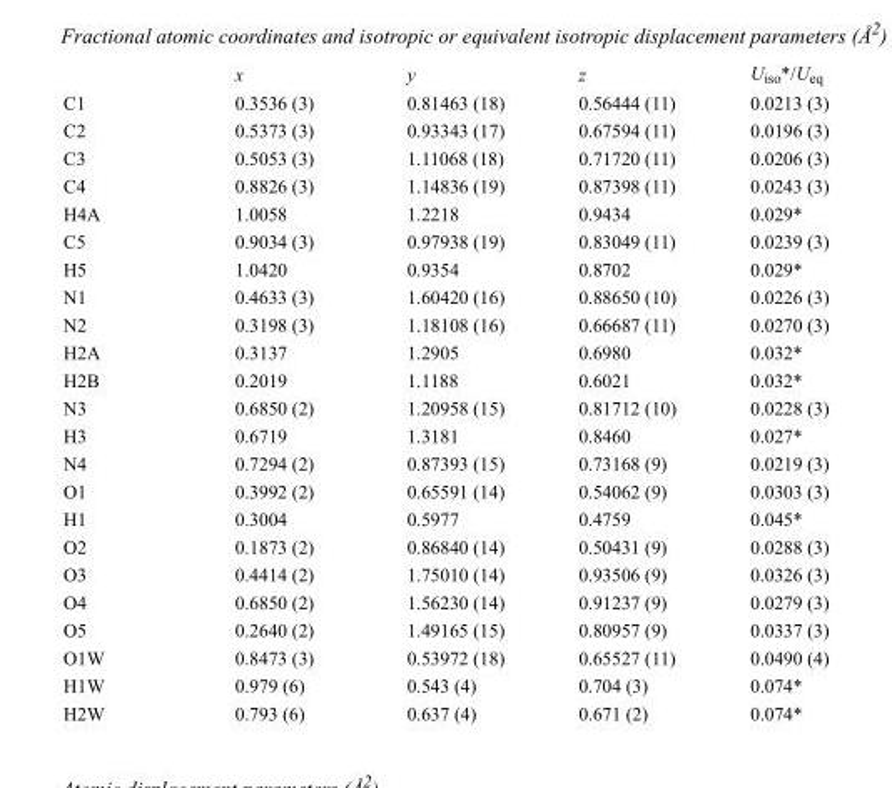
<table><thead><tr><td></td><td>x</td><td>y</td><td>z</td><td>U<sub>iso</sub>*/U<sub>eq</sub></td></tr></thead><tbody><tr><td>C1</td><td>0.3536 (3)</td><td>0.81463 (18)</td><td>0.56444 (11)</td><td>0.0213 (3)</td></tr><tr><td>C2</td><td>0.5373 (3)</td><td>0.93343 (17)</td><td>0.67594 (11)</td><td>0.0196 (3)</td></tr><tr><td>C3</td><td>0.5053 (3)</td><td>1.11068 (18)</td><td>0.71720 (11)</td><td>0.0206 (3)</td></tr><tr><td>C4</td><td>0.8826 (3)</td><td>1.14836 (19)</td><td>0.87398 (11)</td><td>0.0243 (3)</td></tr><tr><td>H4A</td><td>1.0058</td><td>1.2218</td><td>0.9434</td><td>0.029*</td></tr><tr><td>C5</td><td>0.9034 (3)</td><td>0.97938 (19)</td><td>0.83049 (11)</td><td>0.0239 (3)</td></tr><tr><td>H5</td><td>1.0420</td><td>0.9354</td><td>0.8702</td><td>0.029*</td></tr><tr><td>N1</td><td>0.4633 (3)</td><td>1.60420 (16)</td><td>0.88650 (10)</td><td>0.0226 (3)</td></tr><tr><td>N2</td><td>0.3198 (3)</td><td>1.18108 (16)</td><td>0.66687 (11)</td><td>0.0270 (3)</td></tr><tr><td>H2A</td><td>0.3137</td><td>1.2905</td><td>0.6980</td><td>0.032*</td></tr><tr><td>H2B</td><td>0.2019</td><td>1.1188</td><td>0.6021</td><td>0.032*</td></tr><tr><td>N3</td><td>0.6850 (2)</td><td>1.20958 (15)</td><td>0.81712 (10)</td><td>0.0228 (3)</td></tr><tr><td>H3</td><td>0.6719</td><td>1.3181</td><td>0.8460</td><td>0.027*</td></tr><tr><td>N4</td><td>0.7294 (2)</td><td>0.87393 (15)</td><td>0.73168 (9)</td><td>0.0219 (3)</td></tr><tr><td>O1</td><td>0.3992 (2)</td><td>0.65591 (14)</td><td>0.54062 (9)</td><td>0.0303 (3)</td></tr><tr><td>H1</td><td>0.3004</td><td>0.5977</td><td>0.4759</td><td>0.045*</td></tr><tr><td>O2</td><td>0.1873 (2)</td><td>0.86840 (14)</td><td>0.50431 (9)</td><td>0.0288 (3)</td></tr><tr><td>O3</td><td>0.4414 (2)</td><td>1.75010 (14)</td><td>0.93506 (9)</td><td>0.0326 (3)</td></tr><tr><td>O4</td><td>0.6850 (2)</td><td>1.56230 (14)</td><td>0.91237 (9)</td><td>0.0279 (3)</td></tr><tr><td>O5</td><td>0.2640 (2)</td><td>1.49165 (15)</td><td>0.80957 (9)</td><td>0.0337 (3)</td></tr><tr><td>O1W</td><td>0.8473 (3)</td><td>0.53972 (18)</td><td>0.65527 (11)</td><td>0.0490 (4)</td></tr><tr><td>H1W</td><td>0.979 (6)</td><td>0.543 (4)</td><td>0.704 (3)</td><td>0.074*</td></tr><tr><td>H2W</td><td>0.793 (6)</td><td>0.637 (4)</td><td>0.671 (2)</td><td>0.074*</td></tr></tbody></table>